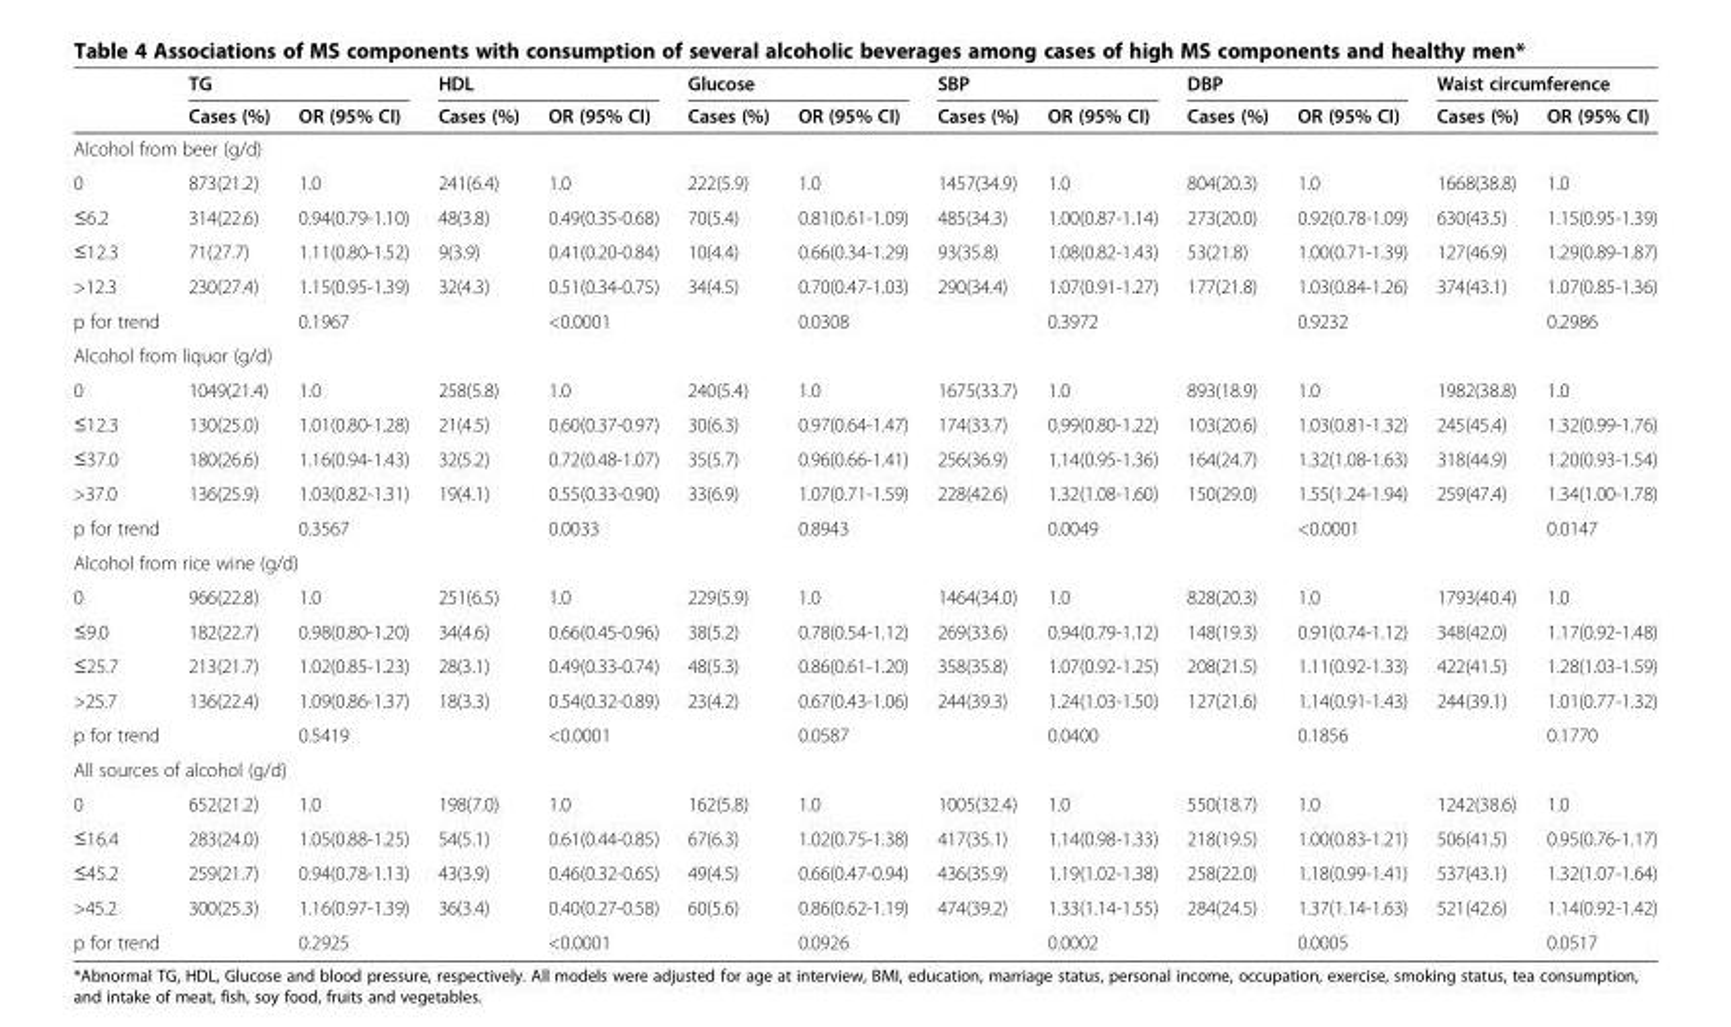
<table><thead><tr><td rowspan="2"></td><td colspan="2">TG</td><td colspan="2">HDL</td><td colspan="2">Glucose</td><td colspan="2">SBP</td><td colspan="2">DBP</td><td colspan="2">Waist circumference</td></tr><tr><td>Cases (%)</td><td>OR (95% CI)</td><td>Cases (%)</td><td>OR (95% CI)</td><td>Cases (%)</td><td>OR (95% CI)</td><td>Cases (%)</td><td>OR (95% CI)</td><td>Cases (%)</td><td>OR (95% CI)</td><td>Cases (%)</td><td>OR (95% CI)</td></tr></thead><tbody><tr><td colspan="13">Alcohol from beer (g/d)</td></tr><tr><td>0</td><td>873(21.2)</td><td>1.0</td><td>241(6.4)</td><td>1.0</td><td>222(5.9)</td><td>1.0</td><td>1457(34.9)</td><td>1.0</td><td>804(20.3)</td><td>1.0</td><td>1668(38.8)</td><td>1.0</td></tr><tr><td>≤6.2</td><td>314(22.6)</td><td>0.94(0.79-1.10)</td><td>48(3.8)</td><td>0.49(0.35-0.68)</td><td>70(5.4)</td><td>0.81(0.61-1.09)</td><td>485(34.3)</td><td>1.00(0.87-1.14)</td><td>273(20.0)</td><td>0.92(0.78-1.09)</td><td>630(43.5)</td><td>1.15(0.95-1.39)</td></tr><tr><td>≤12.3</td><td>71(27.7)</td><td>1.11(0.80-1.52)</td><td>9(3.9)</td><td>0.41(0.20-0.84)</td><td>10(4.4)</td><td>0.66(0.34-1.29)</td><td>93(35.8)</td><td>1.08(0.82-1.43)</td><td>53(21.8)</td><td>1.00(0.71-1.39)</td><td>127(46.9)</td><td>1.29(0.89-1.87)</td></tr><tr><td>&gt;12.3</td><td>230(27.4)</td><td>1.15(0.95-1.39)</td><td>32(4.3)</td><td>0.51(0.34-0.75)</td><td>34(4.5)</td><td>0.70(0.47-1.03)</td><td>290(34.4)</td><td>1.07(0.91-1.27)</td><td>177(21.8)</td><td>1.03(0.84-1.26)</td><td>374(43.1)</td><td>1.07(0.85-1.36)</td></tr><tr><td>p for trend</td><td></td><td>0.1967</td><td></td><td>&lt;0.0001</td><td></td><td>0.0308</td><td></td><td>0.3972</td><td></td><td>0.9232</td><td></td><td>0.2986</td></tr><tr><td colspan="13">Alcohol from liquor (g/d)</td></tr><tr><td>0</td><td>1049(21.4)</td><td>1.0</td><td>258(5.8)</td><td>1.0</td><td>240(5.4)</td><td>1.0</td><td>1675(33.7)</td><td>1.0</td><td>893(18.9)</td><td>1.0</td><td>1982(38.8)</td><td>1.0</td></tr><tr><td>≤12.3</td><td>130(25.0)</td><td>1.01(0.80-1.28)</td><td>21(4.5)</td><td>0.60(0.37-0.97)</td><td>30(6.3)</td><td>0.97(0.64-1.47)</td><td>174(33.7)</td><td>0.99(0.80-1.22)</td><td>103(20.6)</td><td>1.03(0.81-1.32)</td><td>245(45.4)</td><td>1.32(0.99-1.76)</td></tr><tr><td>≤37.0</td><td>180(26.6)</td><td>1.16(0.94-1.43)</td><td>32(5.2)</td><td>0.72(0.48-1.07)</td><td>35(5.7)</td><td>0.96(0.66-1.41)</td><td>256(36.9)</td><td>1.14(0.95-1.36)</td><td>164(24.7)</td><td>1.32(1.08-1.63)</td><td>318(44.9)</td><td>1.20(0.93-1.54)</td></tr><tr><td>&gt;37.0</td><td>136(25.9)</td><td>1.03(0.82-1.31)</td><td>19(4.1)</td><td>0.55(0.33-0.90)</td><td>33(6.9)</td><td>1.07(0.71-1.59)</td><td>228(42.6)</td><td>1.32(1.08-1.60)</td><td>150(29.0)</td><td>1.55(1.24-1.94)</td><td>259(47.4)</td><td>1.34(1.00-1.78)</td></tr><tr><td>p for trend</td><td></td><td>0.3567</td><td></td><td>0.0033</td><td></td><td>0.8943</td><td></td><td>0.0049</td><td></td><td>&lt;0.0001</td><td></td><td>0.0147</td></tr><tr><td colspan="13">Alcohol from rice wine (g/d)</td></tr><tr><td>0</td><td>966(22.8)</td><td>1.0</td><td>251(6.5)</td><td>1.0</td><td>229(5.9)</td><td>1.0</td><td>1464(34.0)</td><td>1.0</td><td>828(20.3)</td><td>1.0</td><td>1793(40.4)</td><td>1.0</td></tr><tr><td>≤9.0</td><td>182(22.7)</td><td>0.98(0.80-1.20)</td><td>34(4.6)</td><td>0.66(0.45-0.96)</td><td>38(5.2)</td><td>0.78(0.54-1.12)</td><td>269(33.6)</td><td>0.94(0.79-1.12)</td><td>148(19.3)</td><td>0.91(0.74-1.12)</td><td>348(42.0)</td><td>1.17(0.92-1.48)</td></tr><tr><td>≤25.7</td><td>213(21.7)</td><td>1.02(0.85-1.23)</td><td>28(3.1)</td><td>0.49(0.33-0.74)</td><td>48(5.3)</td><td>0.86(0.61-1.20)</td><td>358(35.8)</td><td>1.07(0.92-1.25)</td><td>208(21.5)</td><td>1.11(0.92-1.33)</td><td>422(41.5)</td><td>1.28(1.03-1.59)</td></tr><tr><td>&gt;25.7</td><td>136(22.4)</td><td>1.09(0.86-1.37)</td><td>18(3.3)</td><td>0.54(0.32-0.89)</td><td>23(4.2)</td><td>0.67(0.43-1.06)</td><td>244(39.3)</td><td>1.24(1.03-1.50)</td><td>127(21.6)</td><td>1.14(0.91-1.43)</td><td>244(39.1)</td><td>1.01(0.77-1.32)</td></tr><tr><td>p for trend</td><td></td><td>0.5419</td><td></td><td>&lt;0.0001</td><td></td><td>0.0587</td><td></td><td>0.0400</td><td></td><td>0.1856</td><td></td><td>0.1770</td></tr><tr><td colspan="13">All sources of alcohol (g/d)</td></tr><tr><td>0</td><td>652(21.2)</td><td>1.0</td><td>198(7.0)</td><td>1.0</td><td>162(5.8)</td><td>1.0</td><td>1005(32.4)</td><td>1.0</td><td>550(18.7)</td><td>1.0</td><td>1242(38.6)</td><td>1.0</td></tr><tr><td>≤16.4</td><td>283(24.0)</td><td>1.05(0.88-1.25)</td><td>54(5.1)</td><td>0.61(0.44-0.85)</td><td>67(6.3)</td><td>1.02(0.75-1.38)</td><td>417(35.1)</td><td>1.14(0.98-1.33)</td><td>218(19.5)</td><td>1.00(0.83-1.21)</td><td>506(41.5)</td><td>0.95(0.76-1.17)</td></tr><tr><td>≤45.2</td><td>259(21.7)</td><td>0.94(0.78-1.13)</td><td>43(3.9)</td><td>0.46(0.32-0.65)</td><td>49(4.5)</td><td>0.66(0.47-0.94)</td><td>436(35.9)</td><td>1.19(1.02-1.38)</td><td>258(22.0)</td><td>1.18(0.99-1.41)</td><td>537(43.1)</td><td>1.32(1.07-1.64)</td></tr><tr><td>&gt;45.2</td><td>300(25.3)</td><td>1.16(0.97-1.39)</td><td>36(3.4)</td><td>0.40(0.27-0.58)</td><td>60(5.6)</td><td>0.86(0.62-1.19)</td><td>474(39.2)</td><td>1.33(1.14-1.55)</td><td>284(24.5)</td><td>1.37(1.14-1.63)</td><td>521(42.6)</td><td>1.14(0.92-1.42)</td></tr><tr><td>p for trend</td><td></td><td>0.2925</td><td></td><td>&lt;0.0001</td><td></td><td>0.0926</td><td></td><td>0.0002</td><td></td><td>0.0005</td><td></td><td>0.0517</td></tr></tbody></table>